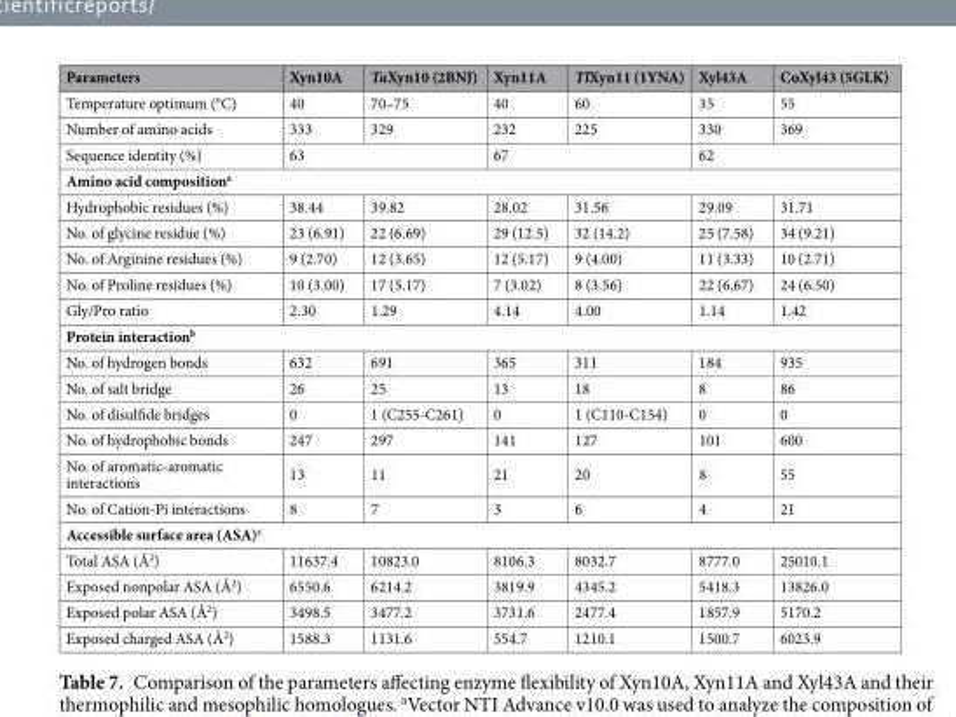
<table><thead><tr><td>Parameters</td><td>Xyn10A</td><td>TaXyn10 (2BNJ)</td><td>Xyn11A</td><td>TlXyn11 (1YNA)</td><td>Xyl43A</td><td>CoXyl43 (5GLK)</td></tr></thead><tbody><tr><td>Temperature optimum (°C)</td><td>40</td><td>70–75</td><td>40</td><td>60</td><td>35</td><td>55</td></tr><tr><td>Number of amino acids</td><td>333</td><td>329</td><td>232</td><td>225</td><td>330</td><td>369</td></tr><tr><td>Sequence identity (%)</td><td colspan="2">63</td><td colspan="2">67</td><td colspan="2">62</td></tr><tr><td colspan="7">Amino acid composition<sup>a</sup></td></tr><tr><td>Hydrophobic residues (%)</td><td>38.44</td><td>39.82</td><td>28.02</td><td>31.56</td><td>29.09</td><td>31.71</td></tr><tr><td>No. of glycine residue (%)</td><td>23 (6.91)</td><td>22 (6.69)</td><td>29 (12.5)</td><td>32 (14.2)</td><td>25 (7.58)</td><td>34 (9.21)</td></tr><tr><td>No. of Arginine residues (%)</td><td>9 (2.70)</td><td>12 (3.65)</td><td>12 (5.17)</td><td>9 (4.00)</td><td>11 (3.33)</td><td>10 (2.71)</td></tr><tr><td>No. of Proline residues (%)</td><td>10 (3.00)</td><td>17 (5.17)</td><td>7 (3.02)</td><td>8 (3.56)</td><td>22 (6.67)</td><td>24 (6.50)</td></tr><tr><td>Gly/Pro ratio</td><td>2.30</td><td>1.29</td><td>4.14</td><td>4.00</td><td>1.14</td><td>1.42</td></tr><tr><td colspan="7">Protein interaction<sup>b</sup></td></tr><tr><td>No. of hydrogen bonds</td><td>632</td><td>691</td><td>365</td><td>311</td><td>184</td><td>935</td></tr><tr><td>No. of salt bridge</td><td>26</td><td>25</td><td>13</td><td>18</td><td>8</td><td>86</td></tr><tr><td>No. of disulfide bridges</td><td>0</td><td>1 (C255-C261)</td><td>0</td><td>1 (C110-C154)</td><td>0</td><td>0</td></tr><tr><td>No. of hydrophobic bonds</td><td>247</td><td>297</td><td>141</td><td>127</td><td>101</td><td>600</td></tr><tr><td>No. of aromatic-aromatic interactions</td><td>13</td><td>11</td><td>21</td><td>20</td><td>8</td><td>55</td></tr><tr><td>No. of Cation-Pi interactions</td><td>8</td><td>7</td><td>3</td><td>6</td><td>4</td><td>21</td></tr><tr><td colspan="7">Accessible surface area (ASA)<sup>c</sup></td></tr><tr><td>Total ASA (Å<sup>2</sup>)</td><td>11637.4</td><td>10823.0</td><td>8106.3</td><td>8032.7</td><td>8777.0</td><td>25010.1</td></tr><tr><td>Exposed nonpolar ASA (Å<sup>2</sup>)</td><td>6550.6</td><td>6214.2</td><td>3819.9</td><td>4345.2</td><td>5418.3</td><td>13826.0</td></tr><tr><td>Exposed polar ASA (Å<sup>2</sup>)</td><td>3498.5</td><td>3477.2</td><td>3731.6</td><td>2477.4</td><td>1857.9</td><td>5170.2</td></tr><tr><td>Exposed charged ASA (Å<sup>2</sup>)</td><td>1588.3</td><td>1131.6</td><td>554.7</td><td>1210.1</td><td>1500.7</td><td>6023.9</td></tr></tbody></table>